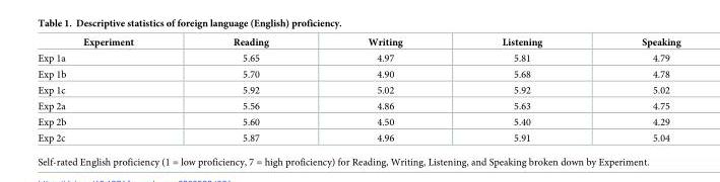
<table><thead><tr><td>Experiment</td><td>Reading</td><td>Writing</td><td>Listening</td><td>Speaking</td></tr></thead><tbody><tr><td>Exp 1a</td><td>5.65</td><td>4.97</td><td>5.81</td><td>4.79</td></tr><tr><td>Exp 1b</td><td>5.70</td><td>4.90</td><td>5.68</td><td>4.78</td></tr><tr><td>Exp 1c</td><td>5.92</td><td>5.02</td><td>5.92</td><td>5.02</td></tr><tr><td>Exp 2a</td><td>5.56</td><td>4.86</td><td>5.63</td><td>4.75</td></tr><tr><td>Exp 2b</td><td>5.60</td><td>4.50</td><td>5.40</td><td>4.29</td></tr><tr><td>Exp 2c</td><td>5.87</td><td>4.96</td><td>5.91</td><td>5.04</td></tr></tbody></table>